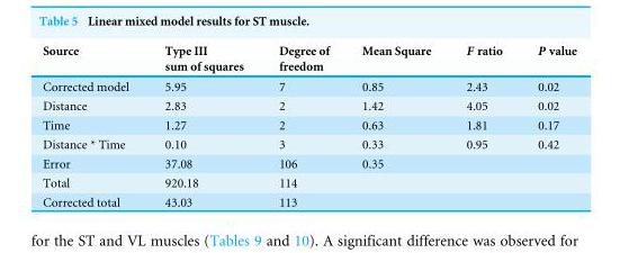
<table><thead><tr><td>Source</td><td>Type III sum of squares</td><td>Degree of freedom</td><td>Mean Square</td><td>F ratio</td><td>P value</td></tr></thead><tbody><tr><td>Corrected model</td><td>5.95</td><td>7</td><td>0.85</td><td>2.43</td><td>0.02</td></tr><tr><td>Distance</td><td>2.83</td><td>2</td><td>1.42</td><td>4.05</td><td>0.02</td></tr><tr><td>Time</td><td>1.27</td><td>2</td><td>0.63</td><td>1.81</td><td>0.17</td></tr><tr><td>Distance * Time</td><td>0.10</td><td>3</td><td>0.33</td><td>0.95</td><td>0.42</td></tr><tr><td>Error</td><td>37.08</td><td>106</td><td>0.35</td><td></td><td></td></tr><tr><td>Total</td><td>920.18</td><td>114</td><td></td><td></td><td></td></tr><tr><td>Corrected total</td><td>43.03</td><td>113</td><td></td><td></td><td></td></tr></tbody></table>